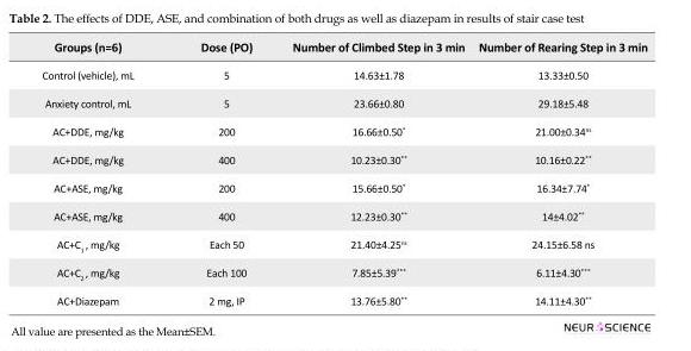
<table><thead><tr><td>Groups (n=6)</td><td>Dose (PO)</td><td>Number of Climbed Step in 3 min</td><td>Number of Rearing Step in 3 min</td></tr></thead><tbody><tr><td>Control (vehicle), mL</td><td>5</td><td>14.63±1.78</td><td>13.33±0.50</td></tr><tr><td>Anxiety control, mL</td><td>5</td><td>23.66±0.80</td><td>29.18±5.48</td></tr><tr><td>AC+DDE, mg/kg</td><td>200</td><td>16.66±0.50*</td><td>21.00±0.34<sup>ns</sup></td></tr><tr><td>AC+DDE, mg/kg</td><td>400</td><td>10.23±0.30**</td><td>10.16±0.22**</td></tr><tr><td>AC+ASE, mg/kg</td><td>200</td><td>15.66±0.50*</td><td>16.34±7.74*</td></tr><tr><td>AC+ASE, mg/kg</td><td>400</td><td>12.23±0.30**</td><td>14±4.02**</td></tr><tr><td>AC+C<sub>1</sub> , mg/kg</td><td>Each 50</td><td>21.40±4.25<sup>ns</sup></td><td>24.15±6.58 ns</td></tr><tr><td>AC+C<sub>2</sub> , mg/kg</td><td>Each 100</td><td>7.85±5.39***</td><td>6.11±4.30***</td></tr><tr><td>AC+Diazepam</td><td>2 mg, IP</td><td>13.76±5.80**</td><td>14.11±4.30**</td></tr></tbody></table>